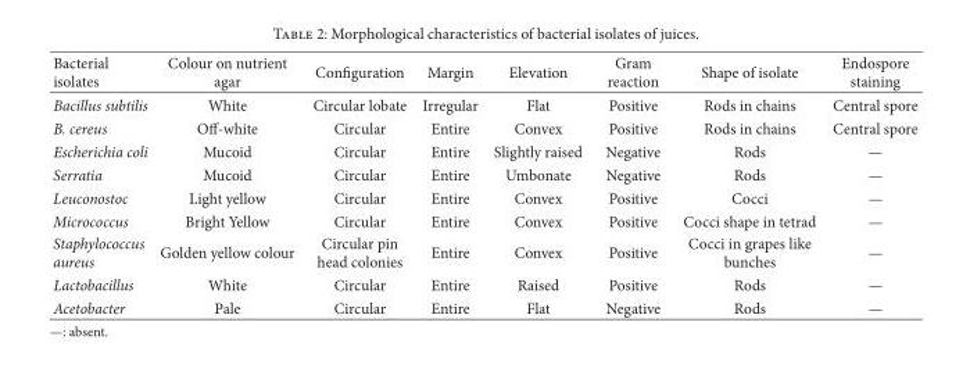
<table><thead><tr><td>Bacterial isolates</td><td>Colour on nutrient agar</td><td>Configuration</td><td>Margin</td><td>Elevation</td><td>Gram reaction</td><td>Shape of isolate</td><td>Endospore staining</td></tr></thead><tbody><tr><td>Bacillus subtilis</td><td>White</td><td>Circular lobate</td><td>Irregular</td><td>Flat</td><td>Positive</td><td>Rods in chains</td><td>Central spore</td></tr><tr><td>B. cereus</td><td>Off-white</td><td>Circular</td><td>Entire</td><td>Convex</td><td>Positive</td><td>Rods in chains</td><td>Central spore</td></tr><tr><td>Escherichia coli</td><td>Mucoid</td><td>Circular</td><td>Entire</td><td>Slightly raised</td><td>Negative</td><td>Rods</td><td>—</td></tr><tr><td>Serratia</td><td>Mucoid</td><td>Circular</td><td>Entire</td><td>Umbonate</td><td>Negative</td><td>Rods</td><td>—</td></tr><tr><td>Leuconostoc</td><td>Light yellow</td><td>Circular</td><td>Entire</td><td>Convex</td><td>Positive</td><td>Cocci</td><td>—</td></tr><tr><td>Micrococcus</td><td>Bright Yellow</td><td>Circular</td><td>Entire</td><td>Convex</td><td>Positive</td><td>Cocci shape in tetrad</td><td>—</td></tr><tr><td>Staphylococcus aureus</td><td>Golden yellow colour</td><td>Circular pin head colonies</td><td>Entire</td><td>Convex</td><td>Positive</td><td>Cocci in grapes like bunches</td><td>—</td></tr><tr><td>Lactobacillus</td><td>White</td><td>Circular</td><td>Entire</td><td>Raised</td><td>Positive</td><td>Rods</td><td>—</td></tr><tr><td>Acetobacter</td><td>Pale</td><td>Circular</td><td>Entire</td><td>Flat</td><td>Negative</td><td>Rods</td><td>—</td></tr></tbody></table>